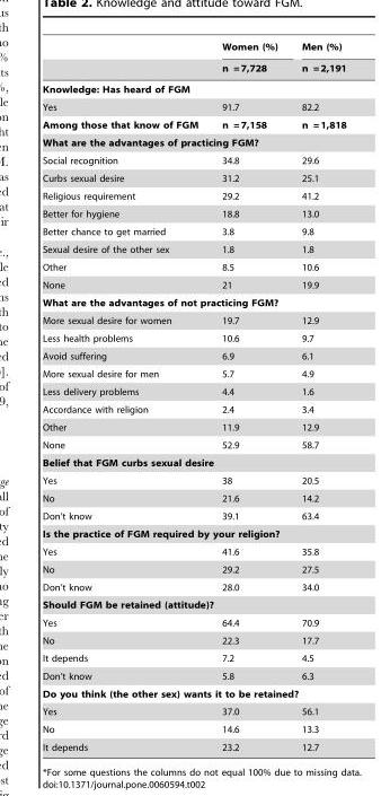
<table><thead><tr><td rowspan="2"></td><td rowspan="2">Women (%) n = 7,728</td><td rowspan="2">Men (%) n = 2,191</td></tr><tr></tr></thead><tbody><tr><td colspan="3">Knowledge: Has heard of FGM</td></tr><tr><td>Yes</td><td>91.7</td><td>82.2</td></tr><tr><td>Among those that know of FGM</td><td>n = 7,158</td><td>n = 1,818</td></tr><tr><td colspan="3">What are the advantages of practicing FGM?</td></tr><tr><td>Social recognition</td><td>34.8</td><td>29.6</td></tr><tr><td>Curbs sexual desire</td><td>31.2</td><td>25.1</td></tr><tr><td>Religious requirement</td><td>29.2</td><td>41.2</td></tr><tr><td>Better for hygiene</td><td>18.8</td><td>13.0</td></tr><tr><td>Better chance to get married</td><td>3.8</td><td>9.8</td></tr><tr><td>Sexual desire of the other sex</td><td>1.8</td><td>1.8</td></tr><tr><td>Other</td><td>8.5</td><td>10.6</td></tr><tr><td>None</td><td>21</td><td>19.9</td></tr><tr><td colspan="3">What are the advantages of not practicing FGM?</td></tr><tr><td>More sexual desire for women</td><td>19.7</td><td>12.9</td></tr><tr><td>Less health problems</td><td>10.6</td><td>9.7</td></tr><tr><td>Avoid suffering</td><td>6.9</td><td>6.1</td></tr><tr><td>More sexual desire for men</td><td>5.7</td><td>4.9</td></tr><tr><td>Less delivery problems</td><td>4.4</td><td>1.6</td></tr><tr><td>Accordance with religion</td><td>2.4</td><td>3.4</td></tr><tr><td>Other</td><td>11.9</td><td>12.9</td></tr><tr><td>None</td><td>52.9</td><td>58.7</td></tr><tr><td colspan="3">Belief that FGM curbs sexual desire</td></tr><tr><td>Yes</td><td>38</td><td>20.5</td></tr><tr><td>No</td><td>21.6</td><td>14.2</td></tr><tr><td>Don’t know</td><td>39.1</td><td>63.4</td></tr><tr><td colspan="3">Is the practice of FGM required by your religion?</td></tr><tr><td>Yes</td><td>41.6</td><td>35.8</td></tr><tr><td>No</td><td>29.2</td><td>27.5</td></tr><tr><td>Don’t know</td><td>28.0</td><td>34.0</td></tr><tr><td colspan="3">Should FGM be retained (attitude)?</td></tr><tr><td>Yes</td><td>64.4</td><td>70.9</td></tr><tr><td>No</td><td>22.3</td><td>17.7</td></tr><tr><td>It depends</td><td>7.2</td><td>4.5</td></tr><tr><td>Don’t know</td><td>5.8</td><td>6.3</td></tr><tr><td colspan="3">Do you think (the other sex) wants it to be retained?</td></tr><tr><td>Yes</td><td>37.0</td><td>56.1</td></tr><tr><td>No</td><td>14.6</td><td>13.3</td></tr><tr><td>It depends</td><td>23.2</td><td>12.7</td></tr></tbody></table>